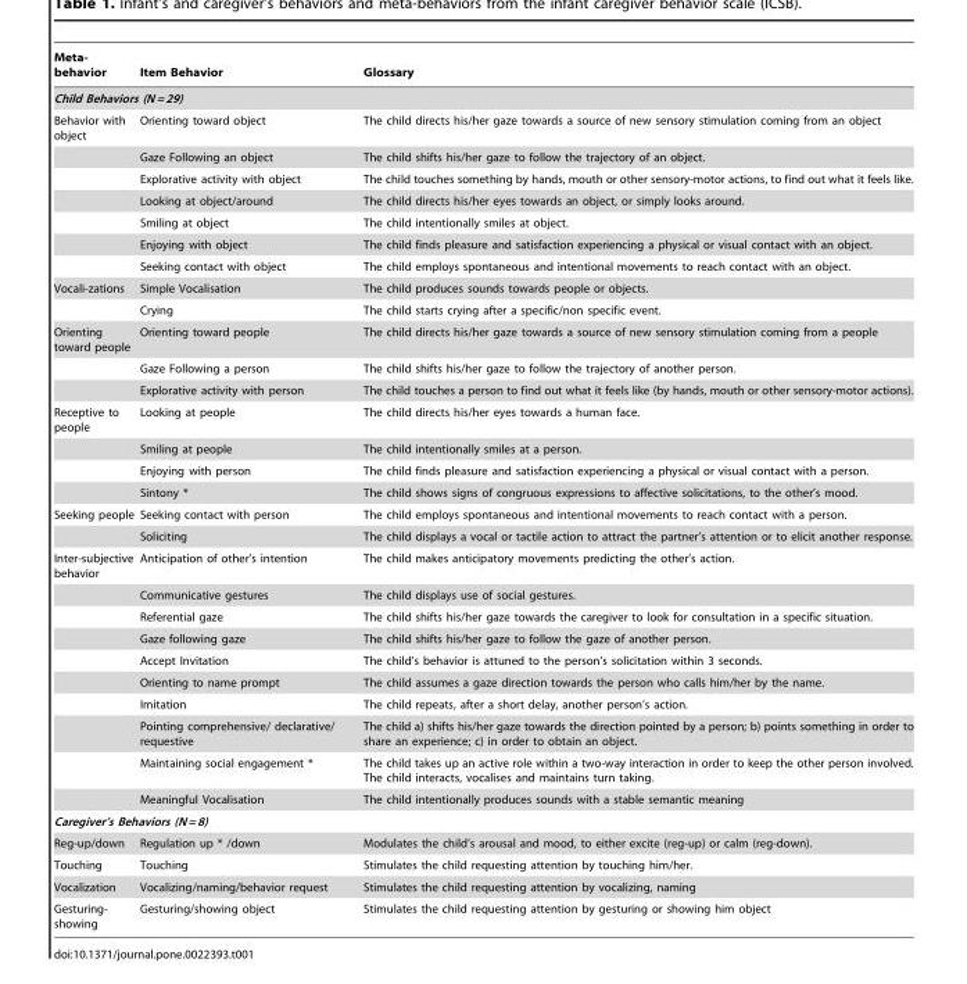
<table><thead><tr><td>Meta- behavior</td><td>Item Behavior</td><td>Glossary</td></tr></thead><tbody><tr><td colspan="3">Child Behaviors (N = 29)</td></tr><tr><td rowspan="7">Behavior with object</td><td>Orienting toward object</td><td>The child directs his/her gaze towards a source of new sensory stimulation coming from an object</td></tr><tr><td>Gaze Following an object</td><td>The child shifts his/her gaze to follow the trajectory of an object.</td></tr><tr><td>Explorative activity with object</td><td>The child touches something by hands, mouth or other sensory-motor actions, to find out what it feels like.</td></tr><tr><td>Looking at object/around</td><td>The child directs his/her eyes towards an object, or simply looks around.</td></tr><tr><td>Smiling at object</td><td>The child intentionally smiles at object.</td></tr><tr><td>Enjoying with object</td><td>The child finds pleasure and satisfaction experiencing a physical or visual contact with an object.</td></tr><tr><td>Seeking contact with object</td><td>The child employs spontaneous and intentional movements to reach contact with an object.</td></tr><tr><td rowspan="2">Vocali-zations</td><td>Simple Vocalisation</td><td>The child produces sounds towards people or objects.</td></tr><tr><td>Crying</td><td>The child starts crying after a specific/non specific event.</td></tr><tr><td rowspan="3">Orienting toward people</td><td>Orienting toward people</td><td>The child directs his/her gaze towards a source of new sensory stimulation coming from a people</td></tr><tr><td>Gaze Following a person</td><td>The child shifts his/her gaze to follow the trajectory of another person.</td></tr><tr><td>Explorative activity with person</td><td>The child touches a person to find out what it feels like (by hands, mouth or other sensory-motor actions).</td></tr><tr><td rowspan="4">Receptive to people</td><td>Looking at people</td><td>The child directs his/her eyes towards a human face.</td></tr><tr><td>Smiling at people</td><td>The child intentionally smiles at a person.</td></tr><tr><td>Enjoying with person</td><td>The child finds pleasure and satisfaction experiencing a physical or visual contact with a person.</td></tr><tr><td>Sintony *</td><td>The child shows signs of congruous expressions to affective solicitations, to the other’s mood.</td></tr><tr><td rowspan="2">Seeking people</td><td>Seeking contact with person</td><td>The child employs spontaneous and intentional movements to reach contact with a person.</td></tr><tr><td>Soliciting</td><td>The child displays a vocal or tactile action to attract the partner’s attention or to elicit another response.</td></tr><tr><td rowspan="10">Inter-subjective behavior</td><td>Anticipation of other’s intention</td><td>The child makes anticipatory movements predicting the other’s action.</td></tr><tr><td>Communicative gestures</td><td>The child displays use of social gestures.</td></tr><tr><td>Referential gaze</td><td>The child shifts his/her gaze towards the caregiver to look for consultation in a specific situation.</td></tr><tr><td>Gaze following gaze</td><td>The child shifts his/her gaze to follow the gaze of another person.</td></tr><tr><td>Accept Invitation</td><td>The child’s behavior is attuned to the person’s solicitation within 3 seconds.</td></tr><tr><td>Orienting to name prompt</td><td>The child assumes a gaze direction towards the person who calls him/her by the name.</td></tr><tr><td>Imitation</td><td>The child repeats, after a short delay, another person’s action.</td></tr><tr><td>Pointing comprehensive/ declarative/ requestive</td><td>The child a) shifts his/her gaze towards the direction pointed by a person; b) points something in order to share an experience; c) in order to obtain an object.</td></tr><tr><td>Maintaining social engagement *</td><td>The child takes up an active role within a two-way interaction in order to keep the other person involved. The child interacts, vocalises and maintains turn taking.</td></tr><tr><td>Meaningful Vocalisation</td><td>The child intentionally produces sounds with a stable semantic meaning</td></tr><tr><td colspan="3">Caregiver’s Behaviors (N = 8)</td></tr><tr><td>Reg-up/down</td><td>Regulation up * /down</td><td>Modulates the child’s arousal and mood, to either excite (reg-up) or calm (reg-down).</td></tr><tr><td>Touching</td><td>Touching</td><td>Stimulates the child requesting attention by touching him/her.</td></tr><tr><td>Vocalization</td><td>Vocalizing/naming/behavior request</td><td>Stimulates the child requesting attention by vocalizing, naming</td></tr><tr><td>Gesturing- showing</td><td>Gesturing/showing object</td><td>Stimulates the child requesting attention by gesturing or showing him object</td></tr></tbody></table>